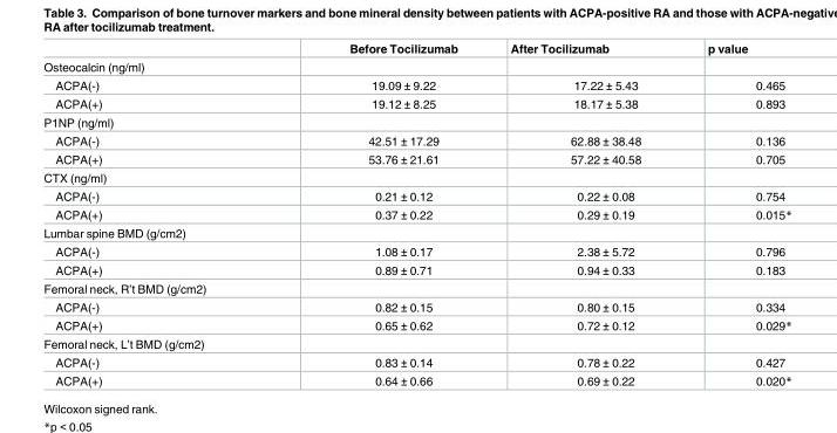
<table><thead><tr><td></td><td>Before Tocilizumab</td><td>After Tocilizumab</td><td>p value</td></tr></thead><tbody><tr><td colspan="4">Osteocalcin (ng/ml)</td></tr><tr><td>ACPA(-)</td><td>19.09 ± 9.22</td><td>17.22 ± 5.43</td><td>0.465</td></tr><tr><td>ACPA(+)</td><td>19.12 ± 8.25</td><td>18.17 ± 5.38</td><td>0.893</td></tr><tr><td colspan="4">P1NP (ng/ml)</td></tr><tr><td>ACPA(-)</td><td>42.51 ± 17.29</td><td>62.88 ± 38.48</td><td>0.136</td></tr><tr><td>ACPA(+)</td><td>53.76 ± 21.61</td><td>57.22 ± 40.58</td><td>0.705</td></tr><tr><td colspan="4">CTX (ng/ml)</td></tr><tr><td>ACPA(-)</td><td>0.21 ± 0.12</td><td>0.22 ± 0.08</td><td>0.754</td></tr><tr><td>ACPA(+)</td><td>0.37 ± 0.22</td><td>0.29 ± 0.19</td><td>0.015*</td></tr><tr><td colspan="4">Lumbar spine BMD (g/cm2)</td></tr><tr><td>ACPA(-)</td><td>1.08 ± 0.17</td><td>2.38 ± 5.72</td><td>0.796</td></tr><tr><td>ACPA(+)</td><td>0.89 ± 0.71</td><td>0.94 ± 0.33</td><td>0.183</td></tr><tr><td colspan="4">Femoral neck, R’t BMD (g/cm2)</td></tr><tr><td>ACPA(-)</td><td>0.82 ± 0.15</td><td>0.80 ± 0.15</td><td>0.334</td></tr><tr><td>ACPA(+)</td><td>0.65 ± 0.62</td><td>0.72 ± 0.12</td><td>0.029*</td></tr><tr><td colspan="4">Femoral neck, L’t BMD (g/cm2)</td></tr><tr><td>ACPA(-)</td><td>0.83 ± 0.14</td><td>0.78 ± 0.22</td><td>0.427</td></tr><tr><td>ACPA(+)</td><td>0.64 ± 0.66</td><td>0.69 ± 0.22</td><td>0.020*</td></tr></tbody></table>